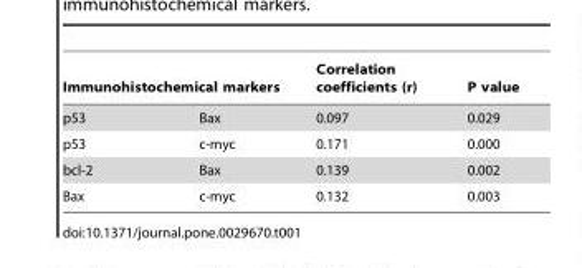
<table><thead><tr><td colspan="2">Immunohistochemical markers</td><td rowspan="2">Correlation coefficients (r) 0.097</td><td rowspan="2">P value 0.029</td></tr><tr><td>p53</td><td>Bax</td></tr></thead><tbody><tr><td>p53</td><td>c-myc</td><td>0.171</td><td>0.000</td></tr><tr><td>bcl-2</td><td>Bax</td><td>0.139</td><td>0.002</td></tr><tr><td>Bax</td><td>c-myc</td><td>0.132</td><td>0.003</td></tr></tbody></table>